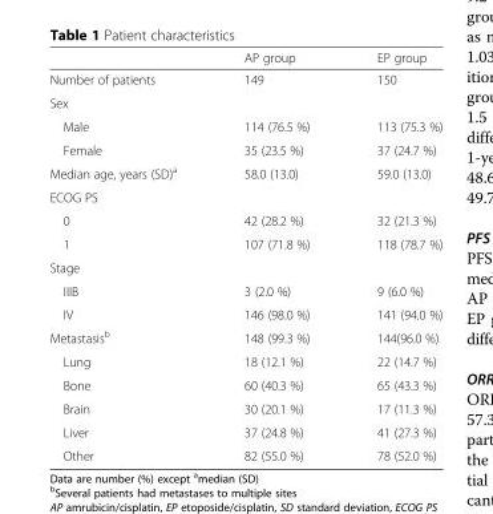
<table><thead><tr><td></td><td>AP group</td><td>EP group</td></tr></thead><tbody><tr><td>Number of patients</td><td>149</td><td>150</td></tr><tr><td colspan="3">Sex</td></tr><tr><td>Male</td><td>114 (76.5 %)</td><td>113 (75.3 %)</td></tr><tr><td>Female</td><td>35 (23.5 %)</td><td>37 (24.7 %)</td></tr><tr><td>Median age, years (SD)<sup>a</sup></td><td>58.0 (13.0)</td><td>59.0 (13.0)</td></tr><tr><td colspan="3">ECOG PS</td></tr><tr><td>0</td><td>42 (28.2 %)</td><td>32 (21.3 %)</td></tr><tr><td>1</td><td>107 (71.8 %)</td><td>118 (78.7 %)</td></tr><tr><td colspan="3">Stage</td></tr><tr><td>IIIB</td><td>3 (2.0 %)</td><td>9 (6.0 %)</td></tr><tr><td>IV</td><td>146 (98.0 %)</td><td>141 (94.0 %)</td></tr><tr><td>Metastasis<sup>b</sup></td><td>148 (99.3 %)</td><td>144(96.0 %)</td></tr><tr><td>Lung</td><td>18 (12.1 %)</td><td>22 (14.7 %)</td></tr><tr><td>Bone</td><td>60 (40.3 %)</td><td>65 (43.3 %)</td></tr><tr><td>Brain</td><td>30 (20.1 %)</td><td>17 (11.3 %)</td></tr><tr><td>Liver</td><td>37 (24.8 %)</td><td>41 (27.3 %)</td></tr><tr><td>Other</td><td>82 (55.0 %)</td><td>78 (52.0 %)</td></tr></tbody></table>